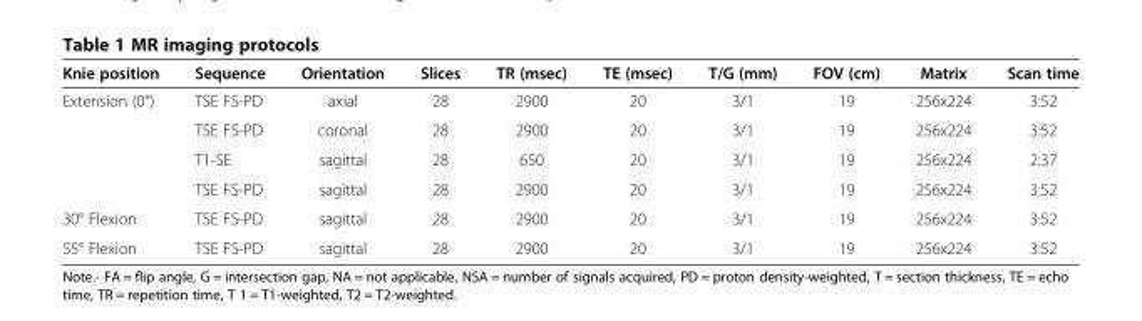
<table><thead><tr><td>Knie position</td><td>Sequence</td><td>Orientation</td><td>Slices</td><td>TR (msec)</td><td>TE (msec)</td><td>T/G (mm)</td><td>FOV (cm)</td><td>Matrix</td><td>Scan time</td></tr></thead><tbody><tr><td rowspan="4">Extension (0°)</td><td>TSE FS-PD</td><td>axial</td><td>28</td><td>2900</td><td>20</td><td>3/1</td><td>19</td><td>256x224</td><td>3:52</td></tr><tr><td>TSE FS-PD</td><td>coronal</td><td>28</td><td>2900</td><td>20</td><td>3/1</td><td>19</td><td>256x224</td><td>3:52</td></tr><tr><td>T1-SE</td><td>sagittal</td><td>28</td><td>650</td><td>20</td><td>3/1</td><td>19</td><td>256x224</td><td>2:37</td></tr><tr><td>TSE FS-PD</td><td>sagittal</td><td>28</td><td>2900</td><td>20</td><td>3/1</td><td>19</td><td>256x224</td><td>3:52</td></tr><tr><td>30° Flexion</td><td>TSE FS-PD</td><td>sagittal</td><td>28</td><td>2900</td><td>20</td><td>3/1</td><td>19</td><td>256x224</td><td>3:52</td></tr><tr><td>55° Flexion</td><td>TSE FS-PD</td><td>sagittal</td><td>28</td><td>2900</td><td>20</td><td>3/1</td><td>19</td><td>256x224</td><td>3:52</td></tr></tbody></table>